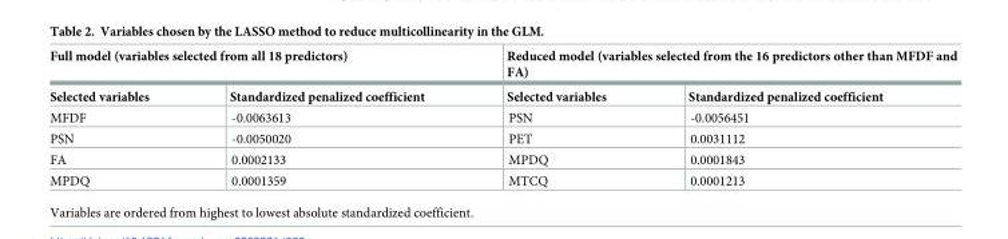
<table><thead><tr><td colspan="2">Full model (variables selected from all 18 predictors)</td><td colspan="2">Reduced model (variables selected from the 16 predictors other than MFDF and FA)</td></tr><tr><td>Selected variables</td><td>Standardized penalized coefficient</td><td>Selected variables</td><td>Standardized penalized coefficient</td></tr></thead><tbody><tr><td>MFDF</td><td>-0.0063613</td><td>PSN</td><td>-0.0056451</td></tr><tr><td>PSN</td><td>-0.0050020</td><td>PET</td><td>0.0031112</td></tr><tr><td>FA</td><td>0.0002133</td><td>MPDQ</td><td>0.0001843</td></tr><tr><td>MPDQ</td><td>0.0001359</td><td>MTCQ</td><td>0.0001213</td></tr></tbody></table>